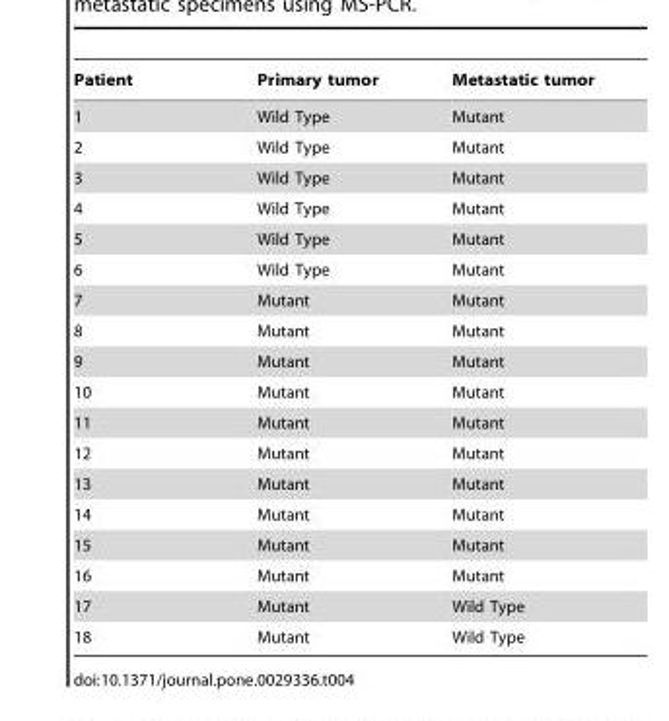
<table><thead><tr><td>Patient</td><td>Primary tumor</td><td>Metastatic tumor</td></tr></thead><tbody><tr><td>1</td><td>Wild Type</td><td>Mutant</td></tr><tr><td>2</td><td>Wild Type</td><td>Mutant</td></tr><tr><td>3</td><td>Wild Type</td><td>Mutant</td></tr><tr><td>4</td><td>Wild Type</td><td>Mutant</td></tr><tr><td>5</td><td>Wild Type</td><td>Mutant</td></tr><tr><td>6</td><td>Wild Type</td><td>Mutant</td></tr><tr><td>7</td><td>Mutant</td><td>Mutant</td></tr><tr><td>8</td><td>Mutant</td><td>Mutant</td></tr><tr><td>9</td><td>Mutant</td><td>Mutant</td></tr><tr><td>10</td><td>Mutant</td><td>Mutant</td></tr><tr><td>11</td><td>Mutant</td><td>Mutant</td></tr><tr><td>12</td><td>Mutant</td><td>Mutant</td></tr><tr><td>13</td><td>Mutant</td><td>Mutant</td></tr><tr><td>14</td><td>Mutant</td><td>Mutant</td></tr><tr><td>15</td><td>Mutant</td><td>Mutant</td></tr><tr><td>16</td><td>Mutant</td><td>Mutant</td></tr><tr><td>17</td><td>Mutant</td><td>Wild Type</td></tr><tr><td>18</td><td>Mutant</td><td>Wild Type</td></tr></tbody></table>